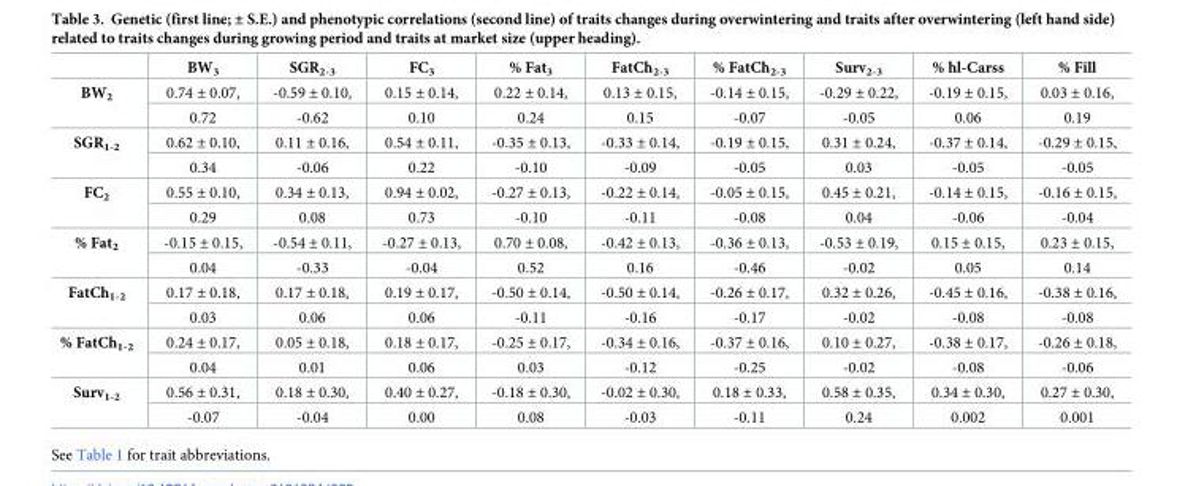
<table><thead><tr><td></td><td>BW<sub>3</sub></td><td>SGR<sub>2-3</sub></td><td>FC<sub>3</sub></td><td>% Fat<sub>3</sub></td><td>FatCh<sub>2-3</sub></td><td>% FatCh<sub>2-3</sub></td><td>Surv<sub>2-3</sub></td><td>% hl-Carss</td><td>% Fill</td></tr></thead><tbody><tr><td rowspan="2">BW<sub>2</sub></td><td>0.74 ± 0.07,</td><td>-0.59 ± 0.10,</td><td>0.15 ± 0.14,</td><td>0.22 ± 0.14,</td><td>0.13 ± 0.15,</td><td>-0.14 ± 0.15,</td><td>-0.29 ± 0.22,</td><td>-0.19 ± 0.15,</td><td>0.03 ± 0.16,</td></tr><tr><td>0.72</td><td>-0.62</td><td>0.10</td><td>0.24</td><td>0.15</td><td>-0.07</td><td>-0.05</td><td>0.06</td><td>0.19</td></tr><tr><td rowspan="2">SGR<sub>1-2</sub></td><td>0.62 ± 0.10,</td><td>0.11 ± 0.16,</td><td>0.54 ± 0.11,</td><td>-0.35 ± 0.13,</td><td>-0.33 ± 0.14,</td><td>-0.19 ± 0.15,</td><td>0.31 ± 0.24,</td><td>-0.37 ± 0.14,</td><td>-0.29 ± 0.15,</td></tr><tr><td>0.34</td><td>-0.06</td><td>0.22</td><td>-0.10</td><td>-0.09</td><td>-0.05</td><td>0.03</td><td>-0.05</td><td>-0.05</td></tr><tr><td rowspan="2">FC<sub>2</sub></td><td>0.55 ± 0.10,</td><td>0.34 ± 0.13,</td><td>0.94 ± 0.02,</td><td>-0.27 ± 0.13,</td><td>-0.22 ± 0.14,</td><td>-0.05 ± 0.15,</td><td>0.45 ± 0.21,</td><td>-0.14 ± 0.15,</td><td>-0.16 ± 0.15,</td></tr><tr><td>0.29</td><td>0.08</td><td>0.73</td><td>-0.10</td><td>-0.11</td><td>-0.08</td><td>0.04</td><td>-0.06</td><td>-0.04</td></tr><tr><td rowspan="2">% Fat<sub>2</sub></td><td>-0.15 ± 0.15,</td><td>-0.54 ± 0.11,</td><td>-0.27 ± 0.13,</td><td>0.70 ± 0.08,</td><td>-0.42 ± 0.13,</td><td>-0.36 ± 0.13,</td><td>-0.53 ± 0.19,</td><td>0.15 ± 0.15,</td><td>0.23 ± 0.15,</td></tr><tr><td>0.04</td><td>-0.33</td><td>-0.04</td><td>0.52</td><td>0.16</td><td>-0.46</td><td>-0.02</td><td>0.05</td><td>0.14</td></tr><tr><td rowspan="2">FatCh<sub>1-2</sub></td><td>0.17 ± 0.18,</td><td>0.17 ± 0.18,</td><td>0.19 ± 0.17,</td><td>-0.50 ± 0.14,</td><td>-0.50 ± 0.14,</td><td>-0.26 ± 0.17,</td><td>0.32 ± 0.26,</td><td>-0.45 ± 0.16,</td><td>-0.38 ± 0.16,</td></tr><tr><td>0.03</td><td>0.06</td><td>0.06</td><td>-0.11</td><td>-0.16</td><td>-0.17</td><td>-0.02</td><td>-0.08</td><td>-0.08</td></tr><tr><td rowspan="2">% FatCh<sub>1-2</sub></td><td>0.24 ± 0.17,</td><td>0.05 ± 0.18,</td><td>0.18 ± 0.17,</td><td>-0.25 ± 0.17,</td><td>-0.34 ± 0.16,</td><td>-0.37 ± 0.16,</td><td>0.10 ± 0.27,</td><td>-0.38 ± 0.17,</td><td>-0.26 ± 0.18,</td></tr><tr><td>0.04</td><td>0.01</td><td>0.06</td><td>0.03</td><td>-0.12</td><td>-0.25</td><td>-0.02</td><td>-0.08</td><td>-0.06</td></tr><tr><td rowspan="2">Surv<sub>1-2</sub></td><td>0.56 ± 0.31,</td><td>0.18 ± 0.30,</td><td>0.40 ± 0.27,</td><td>-0.18 ± 0.30,</td><td>-0.02 ± 0.30,</td><td>0.18 ± 0.33,</td><td>0.58 ± 0.35,</td><td>0.34 ± 0.30,</td><td>0.27 ± 0.30,</td></tr><tr><td>-0.07</td><td>-0.04</td><td>0.00</td><td>0.08</td><td>-0.03</td><td>-0.11</td><td>0.24</td><td>0.002</td><td>0.001</td></tr></tbody></table>